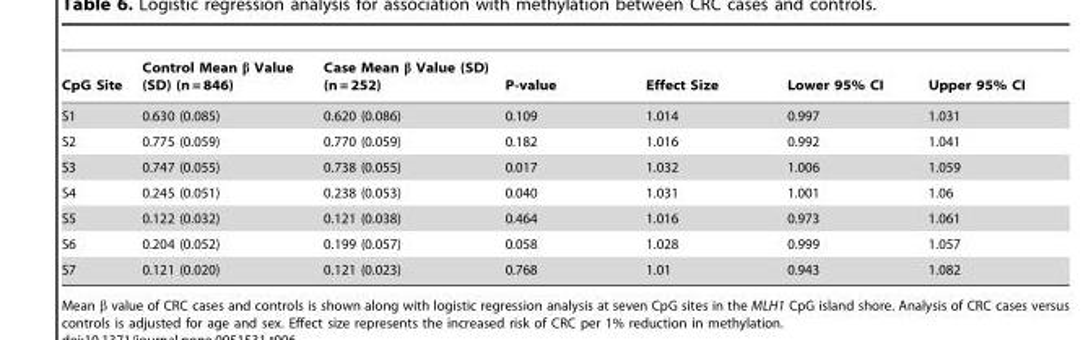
<table><thead><tr><td>CpG Site</td><td>Control Mean β Value (SD) (n = 846)</td><td>Case Mean β Value (SD) (n = 252)</td><td>P-value</td><td>Effect Size</td><td>Lower 95% CI</td><td>Upper 95% CI</td></tr></thead><tbody><tr><td>S1</td><td>0.630 (0.085)</td><td>0.620 (0.086)</td><td>0.109</td><td>1.014</td><td>0.997</td><td>1.031</td></tr><tr><td>S2</td><td>0.775 (0.059)</td><td>0.770 (0.059)</td><td>0.182</td><td>1.016</td><td>0.992</td><td>1.041</td></tr><tr><td>S3</td><td>0.747 (0.055)</td><td>0.738 (0.055)</td><td>0.017</td><td>1.032</td><td>1.006</td><td>1.059</td></tr><tr><td>S4</td><td>0.245 (0.051)</td><td>0.238 (0.053)</td><td>0.040</td><td>1.031</td><td>1.001</td><td>1.06</td></tr><tr><td>S5</td><td>0.122 (0.032)</td><td>0.121 (0.038)</td><td>0.464</td><td>1.016</td><td>0.973</td><td>1.061</td></tr><tr><td>S6</td><td>0.204 (0.052)</td><td>0.199 (0.057)</td><td>0.058</td><td>1.028</td><td>0.999</td><td>1.057</td></tr><tr><td>S7</td><td>0.121 (0.020)</td><td>0.121 (0.023)</td><td>0.768</td><td>1.01</td><td>0.943</td><td>1.082</td></tr></tbody></table>